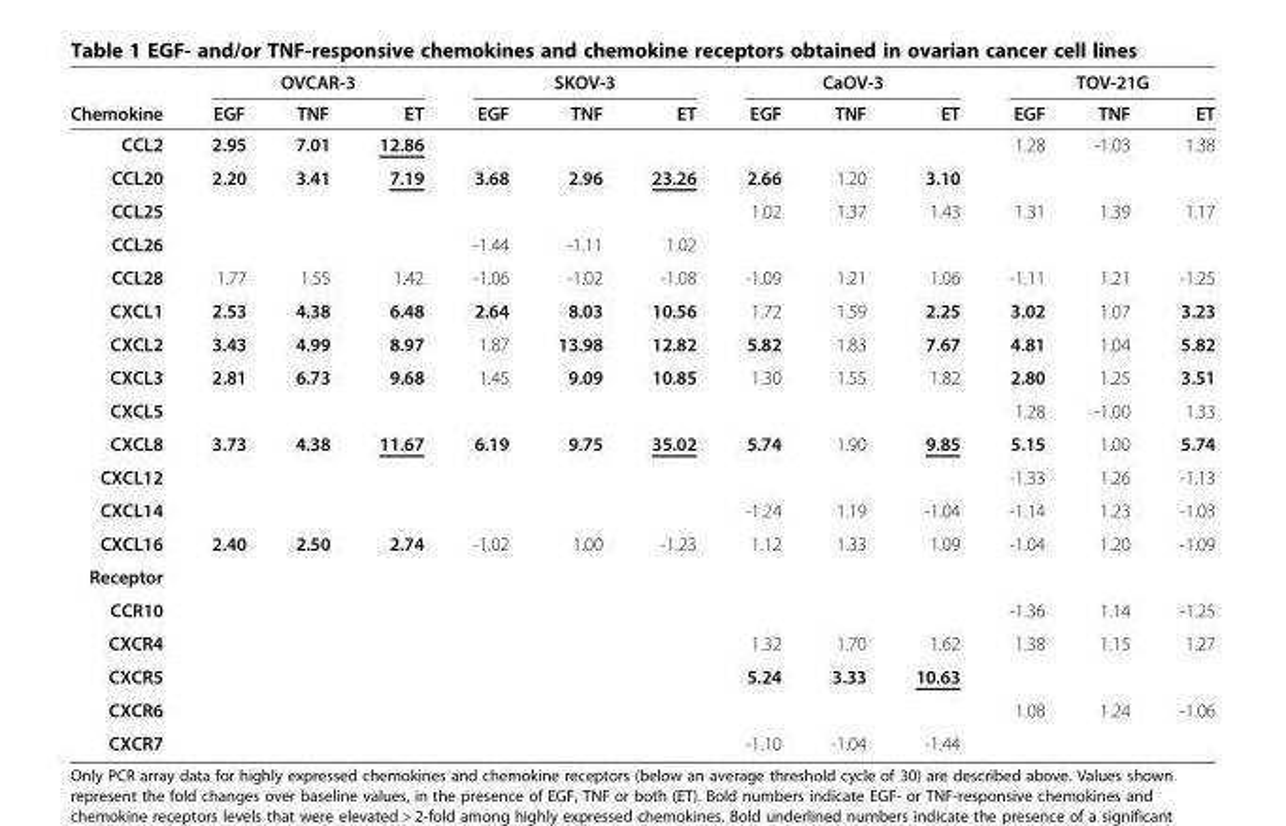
<table><thead><tr><td rowspan="2">Chemokine</td><td colspan="3">OVCAR-3</td><td colspan="3">SKOV-3</td><td colspan="3">CaOV-3</td><td colspan="3">TOV-21G</td></tr><tr><td>EGF</td><td>TNF</td><td>ET</td><td>EGF</td><td>TNF</td><td>ET</td><td>EGF</td><td>TNF</td><td>ET</td><td>EGF</td><td>TNF</td><td>ET</td></tr></thead><tbody><tr><td>CCL2</td><td>2.95</td><td>7.01</td><td>12.86</td><td></td><td></td><td></td><td></td><td></td><td></td><td>1.28</td><td>-1.03</td><td>1.38</td></tr><tr><td>CCL20</td><td>2.20</td><td>3.41</td><td>7.19</td><td>3.68</td><td>2.96</td><td>23.26</td><td>2.66</td><td>1.20</td><td>3.10</td><td></td><td></td><td></td></tr><tr><td>CCL25</td><td></td><td></td><td></td><td></td><td></td><td></td><td>1.02</td><td>1.37</td><td>1.43</td><td>1.31</td><td>1.39</td><td>1.17</td></tr><tr><td>CCL26</td><td></td><td></td><td></td><td>-1.44</td><td>-1.11</td><td>1.02</td><td></td><td></td><td></td><td></td><td></td><td></td></tr><tr><td>CCL28</td><td>1.77</td><td>1.55</td><td>1.42</td><td>-1.06</td><td>-1.02</td><td>-1.08</td><td>-1.09</td><td>1.21</td><td>1.06</td><td>-1.11</td><td>1.21</td><td>-1.25</td></tr><tr><td>CXCL1</td><td>2.53</td><td>4.38</td><td>6.48</td><td>2.64</td><td>8.03</td><td>10.56</td><td>1.72</td><td>1.59</td><td>2.25</td><td>3.02</td><td>1.07</td><td>3.23</td></tr><tr><td>CXCL2</td><td>3.43</td><td>4.99</td><td>8.97</td><td>1.87</td><td>13.98</td><td>12.82</td><td>5.82</td><td>1.83</td><td>7.67</td><td>4.81</td><td>1.04</td><td>5.82</td></tr><tr><td>CXCL3</td><td>2.81</td><td>6.73</td><td>9.68</td><td>1.45</td><td>9.09</td><td>10.85</td><td>1.30</td><td>1.55</td><td>1.82</td><td>2.80</td><td>1.25</td><td>3.51</td></tr><tr><td>CXCL5</td><td></td><td></td><td></td><td></td><td></td><td></td><td></td><td></td><td></td><td>1.28</td><td>-1.00</td><td>1.33</td></tr><tr><td>CXCL8</td><td>3.73</td><td>4.38</td><td>11.67</td><td>6.19</td><td>9.75</td><td>35.02</td><td>5.74</td><td>1.90</td><td>9.85</td><td>5.15</td><td>1.00</td><td>5.74</td></tr><tr><td>CXCL12</td><td></td><td></td><td></td><td></td><td></td><td></td><td></td><td></td><td></td><td>-1.33</td><td>1.26</td><td>-1.13</td></tr><tr><td>CXCL14</td><td></td><td></td><td></td><td></td><td></td><td></td><td>-1.24</td><td>1.19</td><td>-1.04</td><td>-1.14</td><td>1.23</td><td>-1.03</td></tr><tr><td>CXCL16</td><td>2.40</td><td>2.50</td><td>2.74</td><td>-1.02</td><td>1.00</td><td>-1.23</td><td>1.12</td><td>1.33</td><td>1.09</td><td>-1.04</td><td>1.20</td><td>-1.09</td></tr><tr><td colspan="13">Receptor</td></tr><tr><td>CCR10</td><td></td><td></td><td></td><td></td><td></td><td></td><td></td><td></td><td></td><td>-1.36</td><td>1.14</td><td>-1.25</td></tr><tr><td>CXCR4</td><td></td><td></td><td></td><td></td><td></td><td></td><td>1.32</td><td>1.70</td><td>1.62</td><td>1.38</td><td>1.15</td><td>1.27</td></tr><tr><td>CXCR5</td><td></td><td></td><td></td><td></td><td></td><td></td><td>5.24</td><td>3.33</td><td>10.63</td><td></td><td></td><td></td></tr><tr><td>CXCR6</td><td></td><td></td><td></td><td></td><td></td><td></td><td></td><td></td><td></td><td>1.08</td><td>1.24</td><td>-1.06</td></tr><tr><td>CXCR7</td><td></td><td></td><td></td><td></td><td></td><td></td><td>-1.10</td><td>-1.04</td><td>-1.44</td><td></td><td></td><td></td></tr></tbody></table>